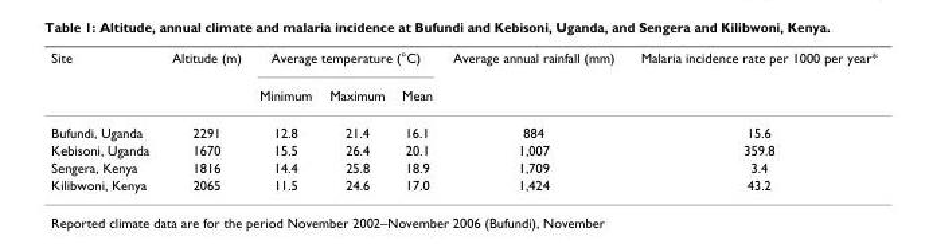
<table><thead><tr><td rowspan="2">Site</td><td rowspan="2">Altitude (m)</td><td colspan="3">Average temperature (°C)</td><td rowspan="2">Average annual rainfall (mm)</td><td rowspan="2">Malaria incidence rate per 1000 per year*</td></tr><tr><td>Minimum</td><td>Maximum</td><td>Mean</td></tr></thead><tbody><tr><td>Bufundi, Uganda</td><td>2291</td><td>12.8</td><td>21.4</td><td>16.1</td><td>884</td><td>15.6</td></tr><tr><td>Kebisoni, Uganda</td><td>1670</td><td>15.5</td><td>26.4</td><td>20.1</td><td>1,007</td><td>359.8</td></tr><tr><td>Sengera, Kenya</td><td>1816</td><td>14.4</td><td>25.8</td><td>18.9</td><td>1,709</td><td>3.4</td></tr><tr><td>Kilibwoni, Kenya</td><td>2065</td><td>11.5</td><td>24.6</td><td>17.0</td><td>1,424</td><td>43.2</td></tr></tbody></table>